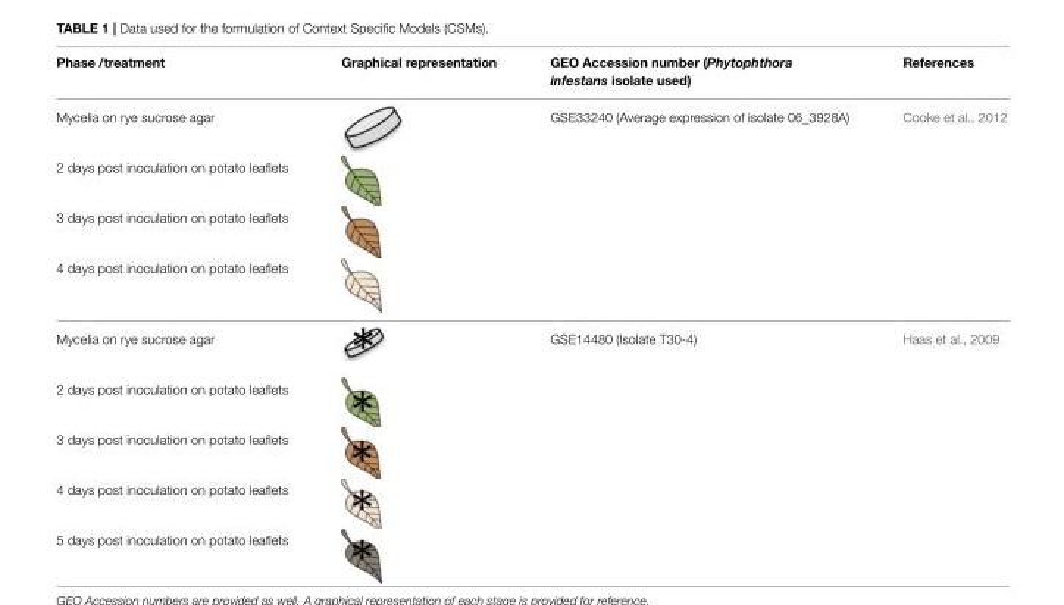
<table><thead><tr><td>Phase /treatment</td><td>Graphical representation</td><td>GEO Accession number (Phytophthora infestans isolate used)</td><td>References</td></tr></thead><tbody><tr><td>Mycelia on rye sucrose agar</td><td></td><td>GSE33240 (Average expression of isolate 06_3928A)</td><td>Cooke et al., 2012</td></tr><tr><td colspan="4">2 days post inoculation on potato leaflets</td></tr><tr><td colspan="4">3 days post inoculation on potato leaflets</td></tr><tr><td colspan="4">4 days post inoculation on potato leaflets</td></tr><tr><td>Mycelia on rye sucrose agar</td><td></td><td>GSE14480 (Isolate T30-4)</td><td>Haas et al., 2009</td></tr><tr><td colspan="4">2 days post inoculation on potato leaflets</td></tr><tr><td colspan="4">3 days post inoculation on potato leaflets</td></tr><tr><td colspan="4">4 days post inoculation on potato leaflets</td></tr><tr><td>5 days post inoculation on potato leaflets</td><td></td><td></td><td></td></tr></tbody></table>